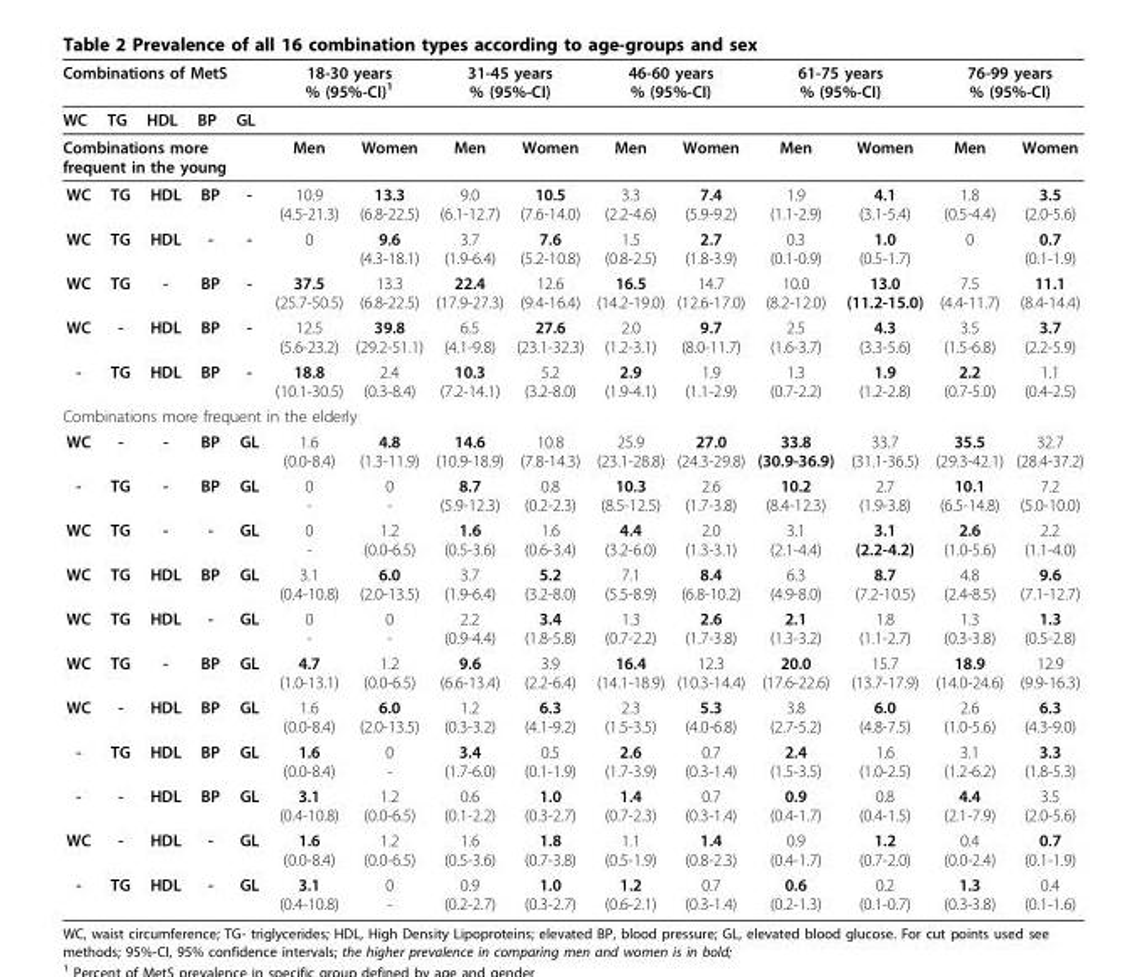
<table><thead><tr><td colspan="5">Combinations of MetS</td><td colspan="2">18-30 years % (95%-CI)<sup>1</sup></td><td colspan="2">31-45 years % (95%-CI)</td><td colspan="2">46-60 years % (95%-CI)</td><td colspan="2">61-75 years % (95%-CI)</td><td colspan="2">76-99 years % (95%-CI)</td></tr><tr><td>WC</td><td>TG</td><td>HDL</td><td>BP</td><td>GL</td><td></td><td></td><td></td><td></td><td></td><td></td><td></td><td></td><td></td><td></td></tr></thead><tbody><tr><td colspan="5">Combinations more frequent in the young</td><td>Men</td><td>Women</td><td>Men</td><td>Women</td><td>Men</td><td>Women</td><td>Men</td><td>Women</td><td>Men</td><td>Women</td></tr><tr><td>WC</td><td>TG</td><td>HDL</td><td>BP</td><td>-</td><td>10.9 (4.5-21.3)</td><td>13.3 (6.8-22.5)</td><td>9.0 (6.1-12.7)</td><td>10.5 (7.6-14.0)</td><td>3.3 (2.2-4.6)</td><td>7.4 (5.9-9.2)</td><td>1.9 (1.1-2.9)</td><td>4.1 (3.1-5.4)</td><td>1.8 (0.5-4.4)</td><td>3.5 (2.0-5.6)</td></tr><tr><td>WC</td><td>TG</td><td>HDL</td><td>-</td><td>-</td><td>0</td><td>9.6 (4.3-18.1)</td><td>3.7 (1.9-6.4)</td><td>7.6 (5.2-10.8)</td><td>1.5 (0.8-2.5)</td><td>2.7 (1.8-3.9)</td><td>0.3 (0.1-0.9)</td><td>1.0 (0.5-1.7)</td><td>0</td><td>0.7 (0.1-1.9)</td></tr><tr><td>WC</td><td>TG</td><td>-</td><td>BP</td><td>-</td><td>37.5 (25.7-50.5)</td><td>13.3 (6.8-22.5)</td><td>22.4 (17.9-27.3)</td><td>12.6 (9.4-16.4)</td><td>16.5 (14.2-19.0)</td><td>14.7 (12.6-17.0)</td><td>10.0 (8.2-12.0)</td><td>13.0 (11.2-15.0)</td><td>7.5 (4.4-11.7)</td><td>11.1 (8.4-14.4)</td></tr><tr><td>WC</td><td>-</td><td>HDL</td><td>BP</td><td>-</td><td>12.5 (5.6-23.2)</td><td>39.8 (29.2-51.1)</td><td>6.5 (4.1-9.8)</td><td>27.6 (23.1-32.3)</td><td>2.0 (1.2-3.1)</td><td>9.7 (8.0-11.7)</td><td>2.5 (1.6-3.7)</td><td>4.3 (3.3-5.6)</td><td>3.5 (1.5-6.8)</td><td>3.7 (2.2-5.9)</td></tr><tr><td>-</td><td>TG</td><td>HDL</td><td>BP</td><td>-</td><td>18.8 (10.1-30.5)</td><td>2.4 (0.3-8.4)</td><td>10.3 (7.2-14.1)</td><td>5.2 (3.2-8.0)</td><td>2.9 (1.9-4.1)</td><td>1.9 (1.1-2.9)</td><td>1.3 (0.7-2.2)</td><td>1.9 (1.2-2.8)</td><td>2.2 (0.7-5.0)</td><td>1.1 (0.4-2.5)</td></tr><tr><td colspan="15">Combinations more frequent in the elderly</td></tr><tr><td>WC</td><td>-</td><td>-</td><td>BP</td><td>GL</td><td>1.6 (0.0-8.4)</td><td>4.8 (1.3-11.9)</td><td>14.6 (10.9-18.9)</td><td>10.8 (7.8-14.3)</td><td>25.9 (23.1-28.8)</td><td>27.0 (24.3-29.8)</td><td>33.8 (30.9-36.9)</td><td>33.7 (31.1-36.5)</td><td>35.5 (29.3-42.1)</td><td>32.7 (28.4-37.2)</td></tr><tr><td>-</td><td>TG</td><td>-</td><td>BP</td><td>GL</td><td>0 -</td><td>0 -</td><td>8.7 (5.9-12.3)</td><td>0.8 (0.2-2.3)</td><td>10.3 (8.5-12.5)</td><td>2.6 (1.7-3.8)</td><td>10.2 (8.4-12.3)</td><td>2.7 (1.9-3.8)</td><td>10.1 (6.5-14.8)</td><td>7.2 (5.0-10.0)</td></tr><tr><td>WC</td><td>TG</td><td>-</td><td>-</td><td>GL</td><td>0 -</td><td>1.2 (0.0-6.5)</td><td>1.6 (0.5-3.6)</td><td>1.6 (0.6-3.4)</td><td>4.4 (3.2-6.0)</td><td>2.0 (1.3-3.1)</td><td>3.1 (2.1-4.4)</td><td>3.1 (2.2-4.2)</td><td>2.6 (1.0-5.6)</td><td>2.2 (1.1-4.0)</td></tr><tr><td>WC</td><td>TG</td><td>HDL</td><td>BP</td><td>GL</td><td>3.1 (0.4-10.8)</td><td>6.0 (2.0-13.5)</td><td>3.7 (1.9-6.4)</td><td>5.2 (3.2-8.0)</td><td>7.1 (5.5-8.9)</td><td>8.4 (6.8-10.2)</td><td>6.3 (4.9-8.0)</td><td>8.7 (7.2-10.5)</td><td>4.8 (2.4-8.5)</td><td>9.6 (7.1-12.7)</td></tr><tr><td>WC</td><td>TG</td><td>HDL</td><td>-</td><td>GL</td><td>0 -</td><td>0 -</td><td>2.2 (0.9-4.4)</td><td>3.4 (1.8-5.8)</td><td>1.3 (0.7-2.2)</td><td>2.6 (1.7-3.8)</td><td>2.1 (1.3-3.2)</td><td>1.8 (1.1-2.7)</td><td>1.3 (0.3-3.8)</td><td>1.3 (0.5-2.8)</td></tr><tr><td>WC</td><td>TG</td><td>-</td><td>BP</td><td>GL</td><td>4.7 (1.0-13.1)</td><td>1.2 (0.0-6.5)</td><td>9.6 (6.6-13.4)</td><td>3.9 (2.2-6.4)</td><td>16.4 (14.1-18.9)</td><td>12.3 (10.3-14.4)</td><td>20.0 (17.6-22.6)</td><td>15.7 (13.7-17.9)</td><td>18.9 (14.0-24.6)</td><td>12.9 (9.9-16.3)</td></tr><tr><td>WC</td><td>-</td><td>HDL</td><td>BP</td><td>GL</td><td>1.6 (0.0-8.4)</td><td>6.0 (2.0-13.5)</td><td>1.2 (0.3-3.2)</td><td>6.3 (4.1-9.2)</td><td>2.3 (1.5-3.5)</td><td>5.3 (4.0-6.8)</td><td>3.8 (2.7-5.2)</td><td>6.0 (4.8-7.5)</td><td>2.6 (1.0-5.6)</td><td>6.3 (4.3-9.0)</td></tr><tr><td>-</td><td>TG</td><td>HDL</td><td>BP</td><td>GL</td><td>1.6 (0.0-8.4)</td><td>0 -</td><td>3.4 (1.7-6.0)</td><td>0.5 (0.1-1.9)</td><td>2.6 (1.7-3.9)</td><td>0.7 (0.3-1.4)</td><td>2.4 (1.5-3.5)</td><td>1.6 (1.0-2.5)</td><td>3.1 (1.2-6.2)</td><td>3.3 (1.8-5.3)</td></tr><tr><td>-</td><td>-</td><td>HDL</td><td>BP</td><td>GL</td><td>3.1 (0.4-10.8)</td><td>1.2 (0.0-6.5)</td><td>0.6 (0.1-2.2)</td><td>1.0 (0.3-2.7)</td><td>1.4 (0.7-2.3)</td><td>0.7 (0.3-1.4)</td><td>0.9 (0.4-1.7)</td><td>0.8 (0.4-1.5)</td><td>4.4 (2.1-7.9)</td><td>3.5 (2.0-5.6)</td></tr><tr><td>WC</td><td>-</td><td>HDL</td><td>-</td><td>GL</td><td>1.6 (0.0-8.4)</td><td>1.2 (0.0-6.5)</td><td>1.6 (0.5-3.6)</td><td>1.8 (0.7-3.8)</td><td>1.1 (0.5-1.9)</td><td>1.4 (0.8-2.3)</td><td>0.9 (0.4-1.7)</td><td>1.2 (0.7-2.0)</td><td>0.4 (0.0-2.4)</td><td>0.7 (0.1-1.9)</td></tr><tr><td>-</td><td>TG</td><td>HDL</td><td>-</td><td>GL</td><td>3.1 (0.4-10.8)</td><td>0 -</td><td>0.9 (0.2-2.7)</td><td>1.0 (0.3-2.7)</td><td>1.2 (0.6-2.1)</td><td>0.7 (0.3-1.4)</td><td>0.6 (0.2-1.3)</td><td>0.2 (0.1-0.7)</td><td>1.3 (0.3-3.8)</td><td>0.4 (0.1-1.6)</td></tr></tbody></table>